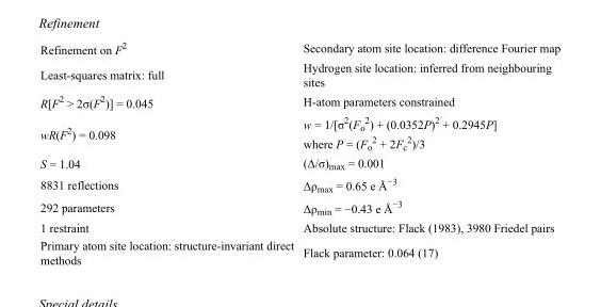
<table><tbody><tr><td>Refinement on F<sup>2</sup></td><td>Secondary atom site location: difference Fourier map</td></tr><tr><td>Least-squares matrix: full</td><td>Hydrogen site location: inferred from neighbouring sites</td></tr><tr><td>R[F<sup>2</sup> &gt; 2σ(F<sup>2</sup>)] = 0.045</td><td>H-atom parameters constrained</td></tr><tr><td>wR(F<sup>2</sup>) = 0.098</td><td>w = 1/[σ<sup>2</sup>(F<sub>o</sub> <sup>2</sup>) + (0.0352P)<sup>2</sup> + 0.2945P] where P = (F<sub>o</sub> <sup>2</sup> + 2F<sub>c</sub> <sup>2</sup>)/3</td></tr><tr><td>S = 1.04</td><td>(Δ/σ)<sub>max</sub> = 0.001</td></tr><tr><td>8831 reflections</td><td>Δρ<sub>max</sub> = 0.65 e Å<sup>−3</sup></td></tr><tr><td>292 parameters</td><td>Δρ<sub>min</sub> = −0.43 e Å<sup>−3</sup></td></tr><tr><td>1 restraint</td><td>Absolute structure: Flack (1983), 3980 Friedel pairs</td></tr><tr><td>Primary atom site location: structure-invariant direct methods</td><td>Flack parameter: 0.064 (17)</td></tr></tbody></table>